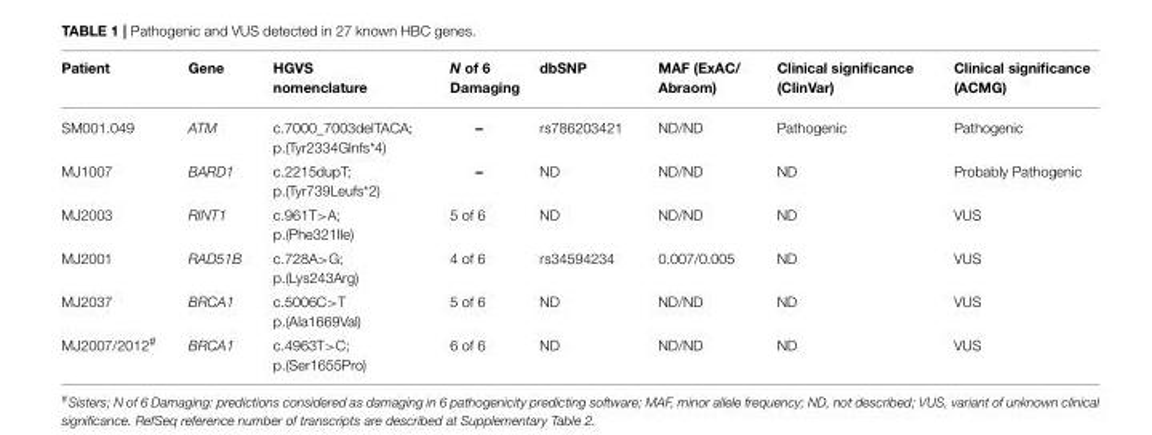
<table><thead><tr><td>Patient</td><td>Gene</td><td>HGVS nomenclature</td><td>N of 6 Damaging</td><td>dbSNP</td><td>MAF (ExAC/ Abraom)</td><td>Clinical significance (ClinVar)</td><td>Clinical significance (ACMG)</td></tr></thead><tbody><tr><td>SM001.049</td><td>ATM</td><td>c.7000_7003delTACA; p.(Tyr2334Glnfs*4)</td><td>–</td><td>rs786203421</td><td>ND/ND</td><td>Pathogenic</td><td>Pathogenic</td></tr><tr><td>MJ1007</td><td>BARD1</td><td>c.2215dupT; p.(Tyr739Leufs*2)</td><td>–</td><td>ND</td><td>ND/ND</td><td>ND</td><td>Probably Pathogenic</td></tr><tr><td>MJ2003</td><td>RINT1</td><td>c.961T&gt;A; p.(Phe321Ile)</td><td>5 of 6</td><td>ND</td><td>ND/ND</td><td>ND</td><td>VUS</td></tr><tr><td>MJ2001</td><td>RAD51B</td><td>c.728A&gt;G; p.(Lys243Arg)</td><td>4 of 6</td><td>rs34594234</td><td>0.007/0.005</td><td>ND</td><td>VUS</td></tr><tr><td>MJ2037</td><td>BRCA1</td><td>c.5006C&gt;T p.(Ala1669Val)</td><td>5 of 6</td><td>ND</td><td>ND/ND</td><td>ND</td><td>VUS</td></tr><tr><td>MJ2007/2012<sup>#</sup></td><td>BRCA1</td><td>c.4963T&gt;C; p.(Ser1655Pro)</td><td>6 of 6</td><td>ND</td><td>ND/ND</td><td>ND</td><td>VUS</td></tr></tbody></table>